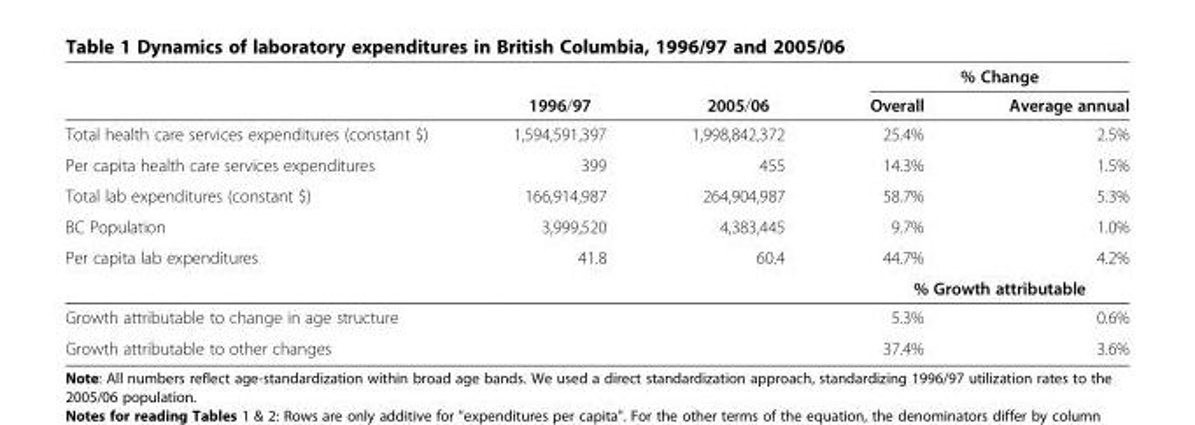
<table><thead><tr><td rowspan="2"></td><td rowspan="2">1996/97</td><td rowspan="2">2005/06</td><td colspan="2">% Change</td></tr><tr><td>Overall</td><td>Average annual</td></tr></thead><tbody><tr><td>Total health care services expenditures (constant $)</td><td>1,594,591,397</td><td>1,998,842,372</td><td>25.4%</td><td>2.5%</td></tr><tr><td>Per capita health care services expenditures</td><td>399</td><td>455</td><td>14.3%</td><td>1.5%</td></tr><tr><td>Total lab expenditures (constant $)</td><td>166,914,987</td><td>264,904,987</td><td>58.7%</td><td>5.3%</td></tr><tr><td>BC Population</td><td>3,999,520</td><td>4,383,445</td><td>9.7%</td><td>1.0%</td></tr><tr><td rowspan="2">Per capita lab expenditures</td><td>41.8</td><td>60.4</td><td>44.7%</td><td>4.2%</td></tr><tr><td></td><td></td><td colspan="2">% Growth attributable</td></tr><tr><td>Growth attributable to change in age structure</td><td></td><td></td><td>5.3%</td><td>0.6%</td></tr><tr><td>Growth attributable to other changes</td><td></td><td></td><td>37.4%</td><td>3.6%</td></tr></tbody></table>